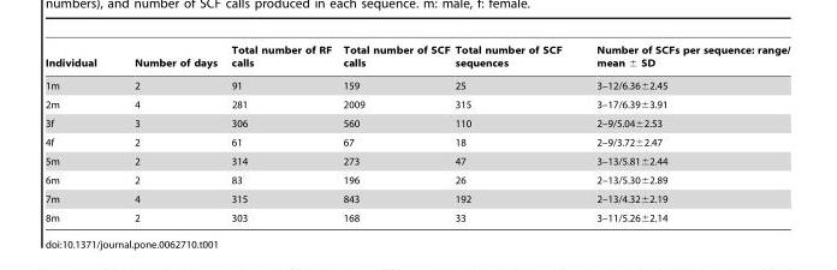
<table><thead><tr><td>Individual</td><td>Number of days</td><td>Total number of RF calls</td><td>Total number of SCF calls</td><td>Total number of SCF sequences</td><td>Number of SCFs per sequence: range/ mean ± SD</td></tr></thead><tbody><tr><td>1m</td><td>2</td><td>91</td><td>159</td><td>25</td><td>3–12/6.36±2.45</td></tr><tr><td>2m</td><td>4</td><td>281</td><td>2009</td><td>315</td><td>3–17/6.39±3.91</td></tr><tr><td>3f</td><td>3</td><td>306</td><td>560</td><td>110</td><td>2–9/5.04±2.53</td></tr><tr><td>4f</td><td>2</td><td>61</td><td>67</td><td>18</td><td>2–9/3.72±2.47</td></tr><tr><td>5m</td><td>2</td><td>314</td><td>273</td><td>47</td><td>3–13/5.81±2.44</td></tr><tr><td>6m</td><td>2</td><td>83</td><td>196</td><td>26</td><td>2–13/5.30±2.89</td></tr><tr><td>7m</td><td>4</td><td>315</td><td>843</td><td>192</td><td>2–13/4.32±2.19</td></tr><tr><td>8m</td><td>2</td><td>303</td><td>168</td><td>33</td><td>3–11/5.26±2.14</td></tr></tbody></table>